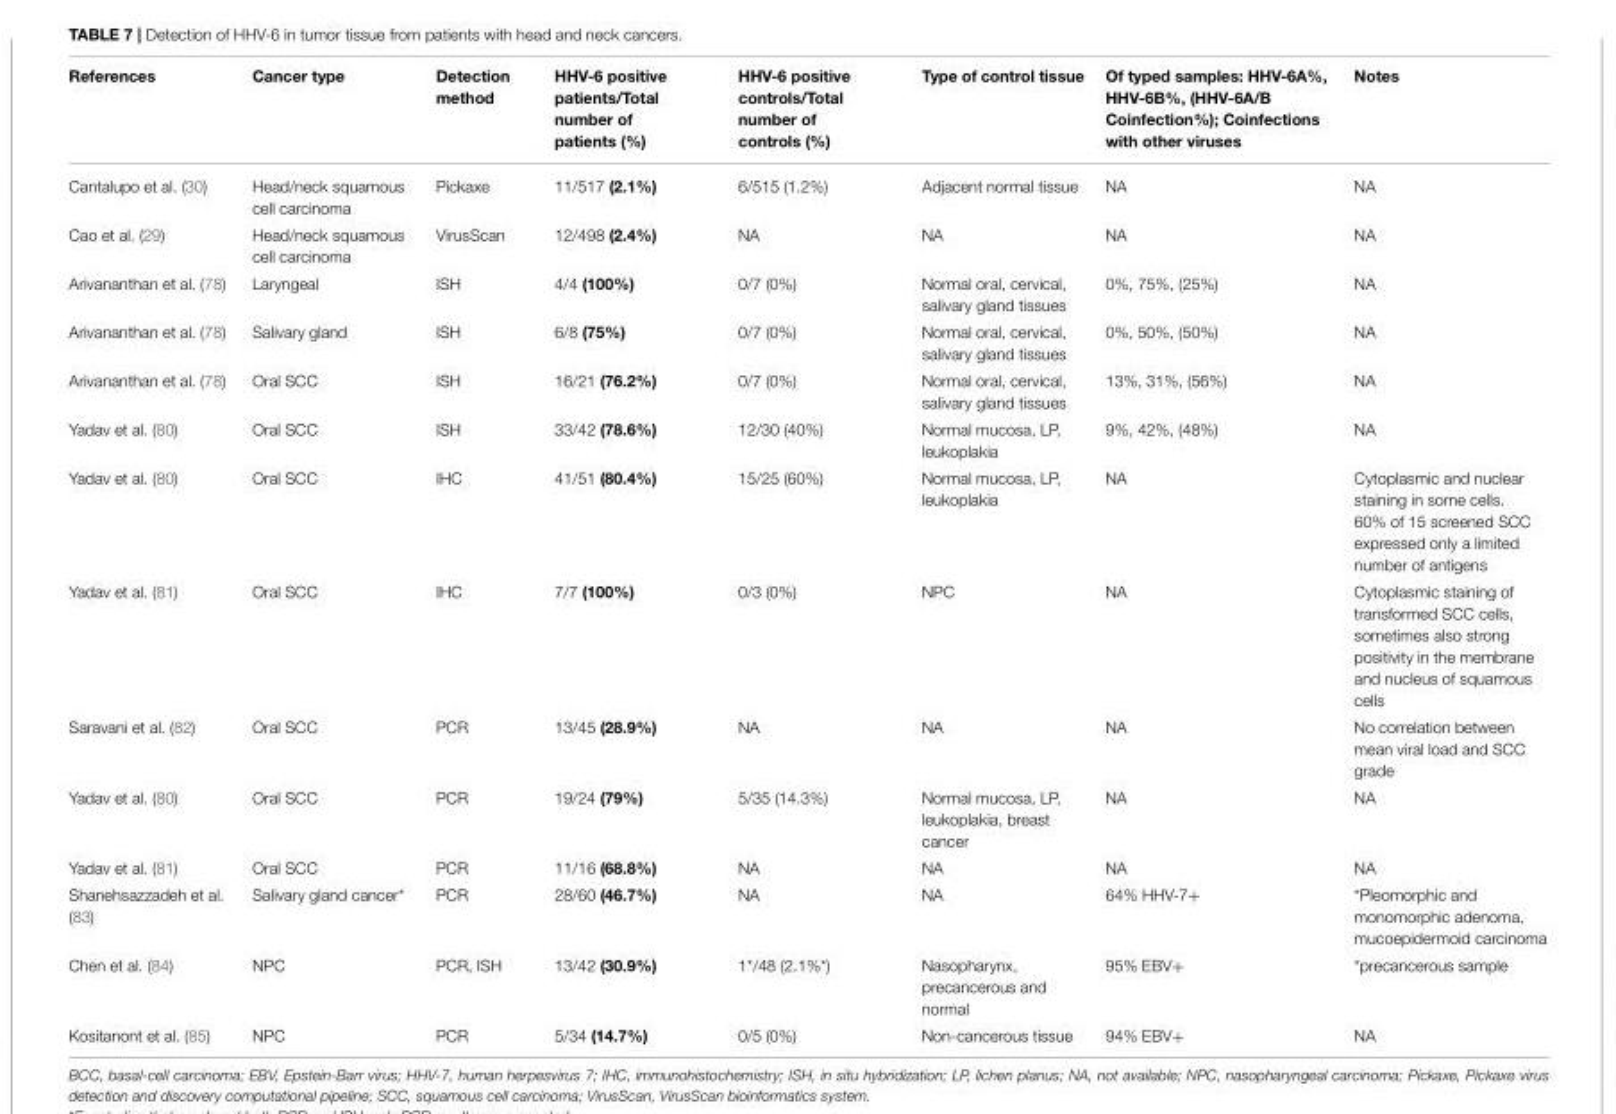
<table><thead><tr><td>References</td><td>Cancer type</td><td>Detection method</td><td>HHV-6 positive patients/Total number of patients (%)</td><td>HHV-6 positive controls/Total number of controls (%)</td><td>Type of control tissue</td><td>Of typed samples: HHV-6A%, HHV-6B%, (HHV-6A/B Coinfection%); Coinfections with other viruses</td><td>Notes</td></tr></thead><tbody><tr><td>Cantalupo et al. (30)</td><td>Head/neck squamous cell carcinoma</td><td>Pickaxe</td><td>11/517 (2.1%)</td><td>6/515 (1.2%)</td><td>Adjacent normal tissue</td><td>NA</td><td>NA</td></tr><tr><td>Cao et al. (29)</td><td>Head/neck squamous cell carcinoma</td><td>VirusScan</td><td>12/498 (2.4%)</td><td>NA</td><td>NA</td><td>NA</td><td>NA</td></tr><tr><td>Arivananthan et al. (78)</td><td>Laryngeal</td><td>ISH</td><td>4/4 (100%)</td><td>0/7 (0%)</td><td>Normal oral, cervical, salivary gland tissues</td><td>0%, 75%, (25%)</td><td>NA</td></tr><tr><td>Arivananthan et al. (78)</td><td>Salivary gland</td><td>ISH</td><td>6/8 (75%)</td><td>0/7 (0%)</td><td>Normal oral, cervical, salivary gland tissues</td><td>0%, 50%, (50%)</td><td>NA</td></tr><tr><td>Arivananthan et al. (78)</td><td>Oral SCC</td><td>ISH</td><td>16/21 (76.2%)</td><td>0/7 (0%)</td><td>Normal oral, cervical, salivary gland tissues</td><td>13%, 31%, (56%)</td><td>NA</td></tr><tr><td>Yadav et al. (80)</td><td>Oral SCC</td><td>ISH</td><td>33/42 (78.6%)</td><td>12/30 (40%)</td><td>Normal mucosa, LP, leukoplakia</td><td>9%, 42%, (48%)</td><td>NA</td></tr><tr><td>Yadav et al. (80)</td><td>Oral SCC</td><td>IHC</td><td>41/51 (80.4%)</td><td>15/25 (60%)</td><td>Normal mucosa, LP, leukoplakia</td><td>NA</td><td>Cytoplasmic and nuclear staining in some cells. 60% of 15 screened SCC expressed only a limited number of antigens</td></tr><tr><td>Yadav et al. (81)</td><td>Oral SCC</td><td>IHC</td><td>7/7 (100%)</td><td>0/3 (0%)</td><td>NPC</td><td>NA</td><td>Cytoplasmic staining of transformed SCC cells, sometimes also strong positivity in the membrane and nucleus of squamous cells</td></tr><tr><td>Saravani et al. (82)</td><td>Oral SCC</td><td>PCR</td><td>13/45 (28.9%)</td><td>NA</td><td>NA</td><td>NA</td><td>No correlation between mean viral load and SCC grade</td></tr><tr><td>Yadav et al. (80)</td><td>Oral SCC</td><td>PCR</td><td>19/24 (79%)</td><td>5/35 (14.3%)</td><td>Normal mucosa, LP, leukoplakia, breast cancer</td><td>NA</td><td>NA</td></tr><tr><td>Yadav et al. (81)</td><td>Oral SCC</td><td>PCR</td><td>11/16 (68.8%)</td><td>NA</td><td>NA</td><td>NA</td><td>NA</td></tr><tr><td>Shanehsazzadeh et al. (83)</td><td>Salivary gland cancer*</td><td>PCR</td><td>28/60 (46.7%)</td><td>NA</td><td>NA</td><td>64% HHV-7+</td><td>*Pleomorphic and monomorphic adenoma, mucoepidermoid carcinoma</td></tr><tr><td>Chen et al. (84)</td><td>NPC</td><td>PCR, ISH</td><td>13/42 (30.9%)</td><td>1*/48 (2.1%*)</td><td>Nasopharynx, precancerous and normal</td><td>95% EBV+</td><td>*precancerous sample</td></tr><tr><td>Kositanont et al. (85)</td><td>NPC</td><td>PCR</td><td>5/34 (14.7%)</td><td>0/5 (0%)</td><td>Non-cancerous tissue</td><td>94% EBV+</td><td>NA</td></tr></tbody></table>